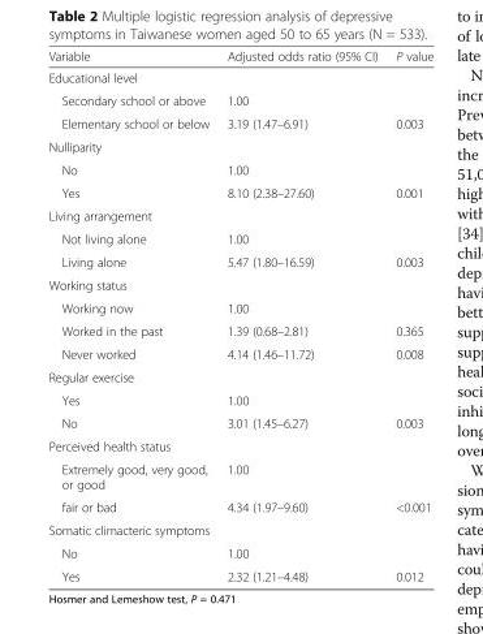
<table><thead><tr><td>Variable</td><td>Adjusted odds ratio (95% CI)</td><td>P value</td></tr></thead><tbody><tr><td colspan="3">Educational level</td></tr><tr><td>Secondary school or above</td><td>1.00</td><td></td></tr><tr><td>Elementary school or below</td><td>3.19 (1.47–6.91)</td><td>0.003</td></tr><tr><td colspan="3">Nulliparity</td></tr><tr><td>No</td><td>1.00</td><td></td></tr><tr><td>Yes</td><td>8.10 (2.38–27.60)</td><td>0.001</td></tr><tr><td colspan="3">Living arrangement</td></tr><tr><td>Not living alone</td><td>1.00</td><td></td></tr><tr><td>Living alone</td><td>5.47 (1.80–16.59)</td><td>0.003</td></tr><tr><td colspan="3">Working status</td></tr><tr><td>Working now</td><td>1.00</td><td></td></tr><tr><td>Worked in the past</td><td>1.39 (0.68–2.81)</td><td>0.365</td></tr><tr><td>Never worked</td><td>4.14 (1.46–11.72)</td><td>0.008</td></tr><tr><td colspan="3">Regular exercise</td></tr><tr><td>Yes</td><td>1.00</td><td></td></tr><tr><td>No</td><td>3.01 (1.45–6.27)</td><td>0.003</td></tr><tr><td colspan="3">Perceived health status</td></tr><tr><td>Extremely good, very good, or good</td><td>1.00</td><td></td></tr><tr><td>fair or bad</td><td>4.34 (1.97–9.60)</td><td>&lt;0.001</td></tr><tr><td colspan="3">Somatic climacteric symptoms</td></tr><tr><td>No</td><td>1.00</td><td></td></tr><tr><td>Yes</td><td>2.32 (1.21–4.48)</td><td>0.012</td></tr></tbody></table>